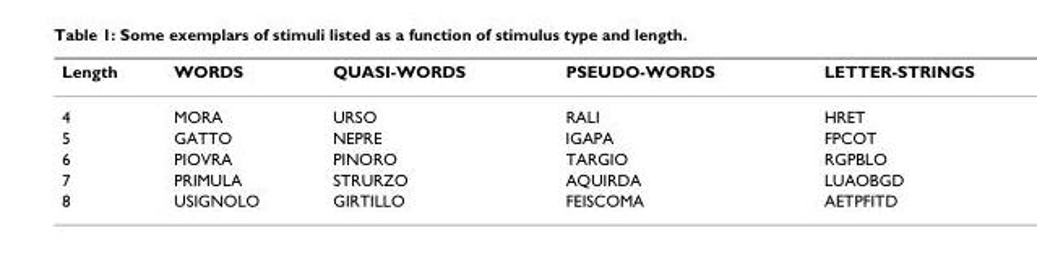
<table><thead><tr><td>Length</td><td>WORDS</td><td>QUASI-WORDS</td><td>PSEUDO-WORDS</td><td>LETTER-STRINGS</td></tr></thead><tbody><tr><td>4</td><td>MORA</td><td>URSO</td><td>RALI</td><td>HRET</td></tr><tr><td>5</td><td>GATTO</td><td>NEPRE</td><td>IGAPA</td><td>FPCOT</td></tr><tr><td>6</td><td>PIOVRA</td><td>PINORO</td><td>TARGIO</td><td>RGPBLO</td></tr><tr><td>7</td><td>PRIMULA</td><td>STRURZO</td><td>AQUIRDA</td><td>LUAOBGD</td></tr><tr><td>8</td><td>USIGNOLO</td><td>GIRTILLO</td><td>FEISCOMA</td><td>AETPFITD</td></tr></tbody></table>